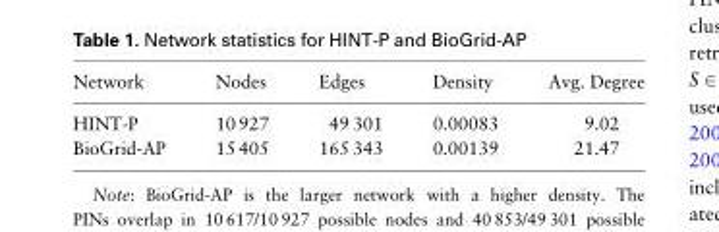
<table><thead><tr><td>Network</td><td>Nodes</td><td>Edges</td><td>Density</td><td>Avg. Degree</td></tr></thead><tbody><tr><td>HINT-P</td><td>10 927</td><td>49 301</td><td>0.00083</td><td>9.02</td></tr><tr><td>BioGrid-AP</td><td>15 405</td><td>165 343</td><td>0.00139</td><td>21.47</td></tr></tbody></table>